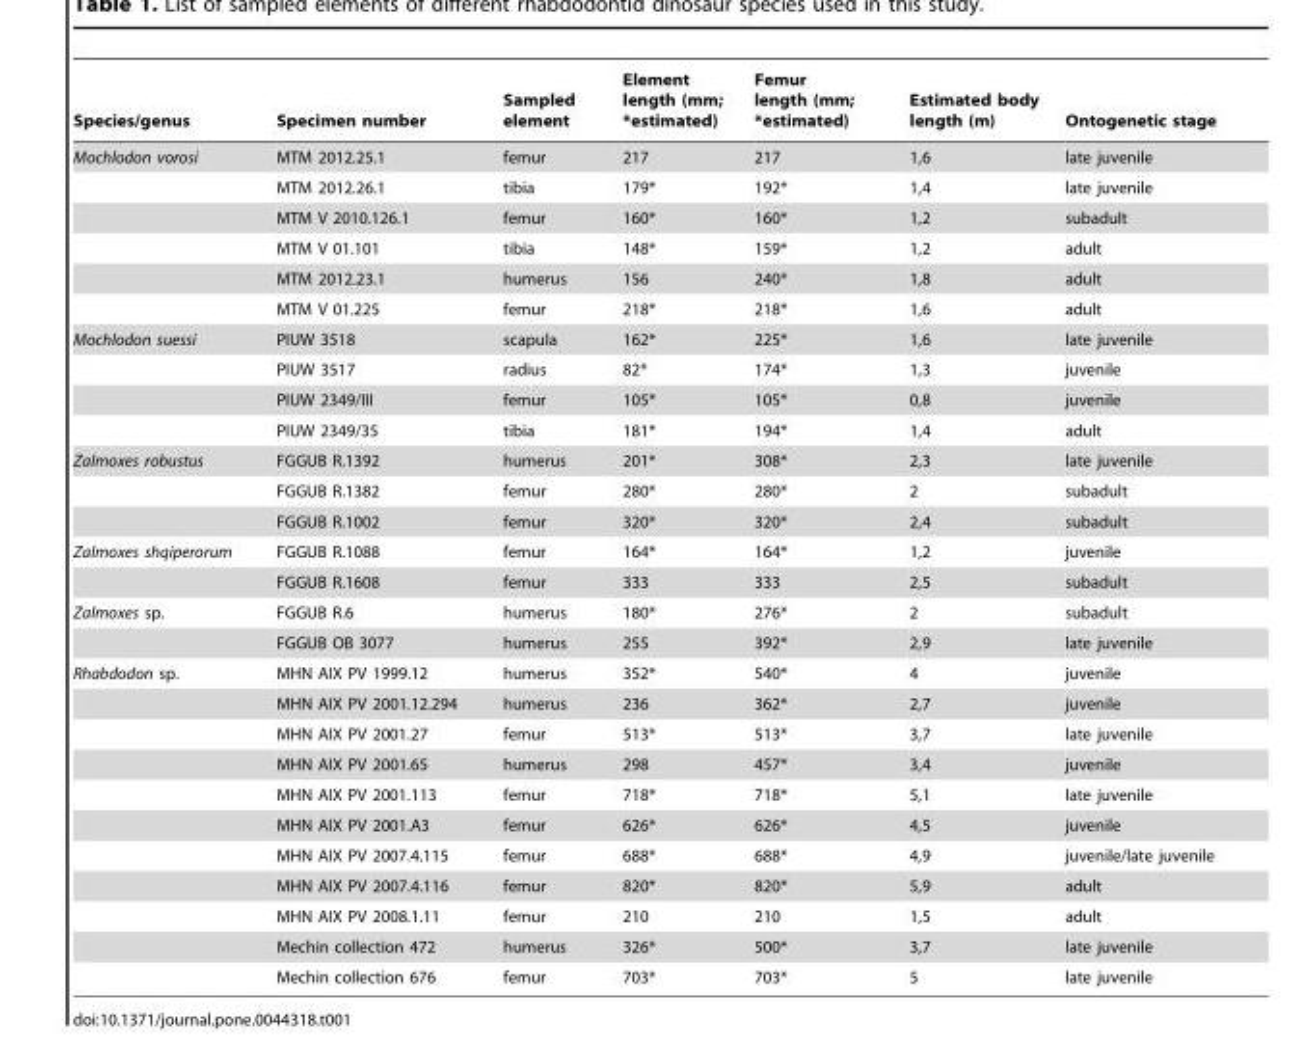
<table><thead><tr><td>Species/genus</td><td>Specimen number</td><td>Sampled element</td><td>Element length (mm; *estimated)</td><td>Femur length (mm; *estimated)</td><td>Estimated body length (m)</td><td>Ontogenetic stage</td></tr></thead><tbody><tr><td rowspan="6">Mochlodon vorosi</td><td>MTM 2012.25.1</td><td>femur</td><td>217</td><td>217</td><td>1,6</td><td>late juvenile</td></tr><tr><td>MTM 2012.26.1</td><td>tibia</td><td>179*</td><td>192*</td><td>1,4</td><td>late juvenile</td></tr><tr><td>MTM V 2010.126.1</td><td>femur</td><td>160*</td><td>160*</td><td>1,2</td><td>subadult</td></tr><tr><td>MTM V 01.101</td><td>tibia</td><td>148*</td><td>159*</td><td>1,2</td><td>adult</td></tr><tr><td>MTM 2012.23.1</td><td>humerus</td><td>156</td><td>240*</td><td>1,8</td><td>adult</td></tr><tr><td>MTM V 01.225</td><td>femur</td><td>218*</td><td>218*</td><td>1,6</td><td>adult</td></tr><tr><td rowspan="4">Mochlodon suessi</td><td>PIUW 3518</td><td>scapula</td><td>162*</td><td>225*</td><td>1,6</td><td>late juvenile</td></tr><tr><td>PIUW 3517</td><td>radius</td><td>82*</td><td>174*</td><td>1,3</td><td>juvenile</td></tr><tr><td>PIUW 2349/III</td><td>femur</td><td>105*</td><td>105*</td><td>0,8</td><td>juvenile</td></tr><tr><td>PIUW 2349/35</td><td>tibia</td><td>181*</td><td>194*</td><td>1,4</td><td>adult</td></tr><tr><td rowspan="3">Zalmoxes robustus</td><td>FGGUB R.1392</td><td>humerus</td><td>201*</td><td>308*</td><td>2,3</td><td>late juvenile</td></tr><tr><td>FGGUB R.1382</td><td>femur</td><td>280*</td><td>280*</td><td>2</td><td>subadult</td></tr><tr><td>FGGUB R.1002</td><td>femur</td><td>320*</td><td>320*</td><td>2,4</td><td>subadult</td></tr><tr><td rowspan="2">Zalmoxes shqiperorum</td><td>FGGUB R.1088</td><td>femur</td><td>164*</td><td>164*</td><td>1,2</td><td>juvenile</td></tr><tr><td>FGGUB R.1608</td><td>femur</td><td>333</td><td>333</td><td>2,5</td><td>subadult</td></tr><tr><td rowspan="2">Zalmoxes sp.</td><td>FGGUB R.6</td><td>humerus</td><td>180*</td><td>276*</td><td>2</td><td>subadult</td></tr><tr><td>FGGUB OB 3077</td><td>humerus</td><td>255</td><td>392*</td><td>2,9</td><td>late juvenile</td></tr><tr><td rowspan="11">Rhabdodon sp.</td><td>MHN AIX PV 1999.12</td><td>humerus</td><td>352*</td><td>540*</td><td>4</td><td>juvenile</td></tr><tr><td>MHN AIX PV 2001.12.294</td><td>humerus</td><td>236</td><td>362*</td><td>2,7</td><td>juvenile</td></tr><tr><td>MHN AIX PV 2001.27</td><td>femur</td><td>513*</td><td>513*</td><td>3,7</td><td>late juvenile</td></tr><tr><td>MHN AIX PV 2001.65</td><td>humerus</td><td>298</td><td>457*</td><td>3,4</td><td>juvenile</td></tr><tr><td>MHN AIX PV 2001.113</td><td>femur</td><td>718*</td><td>718*</td><td>5,1</td><td>late juvenile</td></tr><tr><td>MHN AIX PV 2001.A3</td><td>femur</td><td>626*</td><td>626*</td><td>4,5</td><td>juvenile</td></tr><tr><td>MHN AIX PV 2007.4.115</td><td>femur</td><td>688*</td><td>688*</td><td>4,9</td><td>juvenile/late juvenile</td></tr><tr><td>MHN AIX PV 2007.4.116</td><td>femur</td><td>820*</td><td>820*</td><td>5,9</td><td>adult</td></tr><tr><td>MHN AIX PV 2008.1.11</td><td>femur</td><td>210</td><td>210</td><td>1,5</td><td>adult</td></tr><tr><td>Mechin collection 472</td><td>humerus</td><td>326*</td><td>500*</td><td>3,7</td><td>late juvenile</td></tr><tr><td>Mechin collection 676</td><td>femur</td><td>703*</td><td>703*</td><td>5</td><td>late juvenile</td></tr></tbody></table>